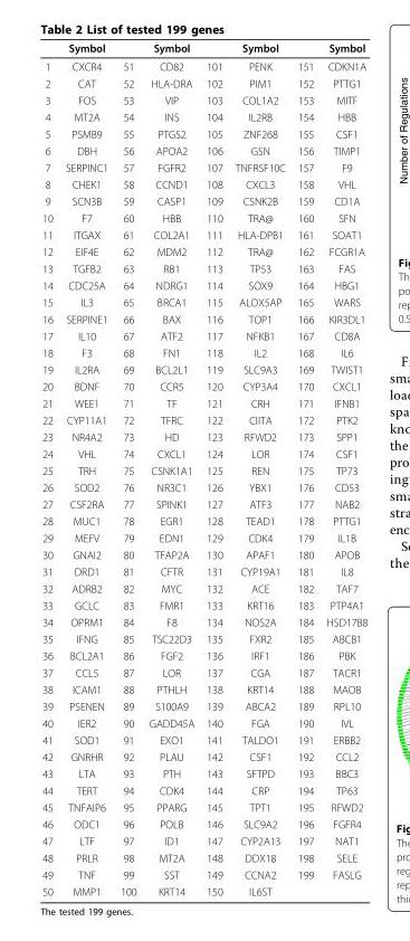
<table><thead><tr><td></td><td>Symbol</td><td></td><td>Symbol</td><td></td><td>Symbol</td><td></td><td>Symbol</td></tr></thead><tbody><tr><td>1</td><td>CXCR4</td><td>51</td><td>CD82</td><td>101</td><td>PENK</td><td>151</td><td>CDKN1A</td></tr><tr><td>2</td><td>CAT</td><td>52</td><td>HLA-DRA</td><td>102</td><td>PIM1</td><td>152</td><td>PTTG1</td></tr><tr><td>3</td><td>FOS</td><td>53</td><td>VIP</td><td>103</td><td>COL1A2</td><td>153</td><td>MITF</td></tr><tr><td>4</td><td>MT2A</td><td>54</td><td>INS</td><td>104</td><td>IL2RB</td><td>154</td><td>HBB</td></tr><tr><td>5</td><td>PSMB9</td><td>55</td><td>PTGS2</td><td>105</td><td>ZNF268</td><td>155</td><td>CSF1</td></tr><tr><td>6</td><td>DBH</td><td>56</td><td>APOA2</td><td>106</td><td>GSN</td><td>156</td><td>TIMP1</td></tr><tr><td>7</td><td>SERPINC1</td><td>57</td><td>FGFR2</td><td>107</td><td>TNFRSF10C</td><td>157</td><td>F9</td></tr><tr><td>8</td><td>CHEK1</td><td>58</td><td>CCND1</td><td>108</td><td>CXCL3</td><td>158</td><td>VHL</td></tr><tr><td>9</td><td>SCN3B</td><td>59</td><td>CASP1</td><td>109</td><td>CSNK2B</td><td>159</td><td>CD1A</td></tr><tr><td>10</td><td>F7</td><td>60</td><td>HBB</td><td>110</td><td>TRA@</td><td>160</td><td>SFN</td></tr><tr><td>11</td><td>ITGAX</td><td>61</td><td>COL2A1</td><td>111</td><td>HLA-DPB1</td><td>161</td><td>SOAT1</td></tr><tr><td>12</td><td>EIF4E</td><td>62</td><td>MDM2</td><td>112</td><td>TRA@</td><td>162</td><td>FCGR1A</td></tr><tr><td>13</td><td>TGFB2</td><td>63</td><td>RB1</td><td>113</td><td>TP53</td><td>163</td><td>FAS</td></tr><tr><td>14</td><td>CDC25A</td><td>64</td><td>NDRG1</td><td>114</td><td>SOX9</td><td>164</td><td>HBG1</td></tr><tr><td>15</td><td>IL3</td><td>65</td><td>BRCA1</td><td>115</td><td>ALOX5AP</td><td>165</td><td>WARS</td></tr><tr><td>16</td><td>SERPINE1</td><td>66</td><td>BAX</td><td>116</td><td>TOP1</td><td>166</td><td>KIR3DL1</td></tr><tr><td>17</td><td>IL10</td><td>67</td><td>ATF2</td><td>117</td><td>NFKB1</td><td>167</td><td>CD8A</td></tr><tr><td>18</td><td>F3</td><td>68</td><td>FN1</td><td>118</td><td>IL2</td><td>168</td><td>IL6</td></tr><tr><td>19</td><td>IL2RA</td><td>69</td><td>BCL2L1</td><td>119</td><td>SLC9A3</td><td>169</td><td>TWIST1</td></tr><tr><td>20</td><td>BDNF</td><td>70</td><td>CCR5</td><td>120</td><td>CYP3A4</td><td>170</td><td>CXCL1</td></tr><tr><td>21</td><td>WEE1</td><td>71</td><td>TF</td><td>121</td><td>CRH</td><td>171</td><td>IFNB1</td></tr><tr><td>22</td><td>CYP11A1</td><td>72</td><td>TFRC</td><td>122</td><td>CIITA</td><td>172</td><td>PTK2</td></tr><tr><td>23</td><td>NR4A2</td><td>73</td><td>HD</td><td>123</td><td>RFWD2</td><td>173</td><td>SPP1</td></tr><tr><td>24</td><td>VHL</td><td>74</td><td>CXCL1</td><td>124</td><td>LOR</td><td>174</td><td>CSF1</td></tr><tr><td>25</td><td>TRH</td><td>75</td><td>CSNK1A1</td><td>125</td><td>REN</td><td>175</td><td>TP73</td></tr><tr><td>26</td><td>SOD2</td><td>76</td><td>NR3C1</td><td>126</td><td>YBX1</td><td>176</td><td>CD53</td></tr><tr><td>27</td><td>CSF2RA</td><td>77</td><td>SPINK1</td><td>127</td><td>ATF3</td><td>177</td><td>NAB2</td></tr><tr><td>28</td><td>MUC1</td><td>78</td><td>EGR1</td><td>128</td><td>TEAD1</td><td>178</td><td>PTTG1</td></tr><tr><td>29</td><td>MEFV</td><td>79</td><td>EDN1</td><td>129</td><td>CDK4</td><td>179</td><td>IL1B</td></tr><tr><td>30</td><td>GNAI2</td><td>80</td><td>TFAP2A</td><td>130</td><td>APAF1</td><td>180</td><td>APOB</td></tr><tr><td>31</td><td>DRD1</td><td>81</td><td>CFTR</td><td>131</td><td>CYP19A1</td><td>181</td><td>IL8</td></tr><tr><td>32</td><td>ADRB2</td><td>82</td><td>MYC</td><td>132</td><td>ACE</td><td>182</td><td>TAF7</td></tr><tr><td>33</td><td>GCLC</td><td>83</td><td>FMR1</td><td>133</td><td>KRT16</td><td>183</td><td>PTP4A1</td></tr><tr><td>34</td><td>OPRM1</td><td>84</td><td>F8</td><td>134</td><td>NOS2A</td><td>184</td><td>HSD17B8</td></tr><tr><td>35</td><td>IFNG</td><td>85</td><td>TSC22D3</td><td>135</td><td>FXR2</td><td>185</td><td>ABCB1</td></tr><tr><td>36</td><td>BCL2A1</td><td>86</td><td>FGF2</td><td>136</td><td>IRF1</td><td>186</td><td>PBK</td></tr><tr><td>37</td><td>CCL5</td><td>87</td><td>LOR</td><td>137</td><td>CGA</td><td>187</td><td>TACR1</td></tr><tr><td>38</td><td>ICAM1</td><td>88</td><td>PTHLH</td><td>138</td><td>KRT14</td><td>188</td><td>MAOB</td></tr><tr><td>39</td><td>PSENEN</td><td>89</td><td>S100A9</td><td>139</td><td>ABCA2</td><td>189</td><td>RPL10</td></tr><tr><td>40</td><td>IER2</td><td>90</td><td>GADD45A</td><td>140</td><td>FGA</td><td>190</td><td>IVL</td></tr><tr><td>41</td><td>SOD1</td><td>91</td><td>EXO1</td><td>141</td><td>TALDO1</td><td>191</td><td>ERBB2</td></tr><tr><td>42</td><td>GNRHR</td><td>92</td><td>PLAU</td><td>142</td><td>CSF1</td><td>192</td><td>CCL2</td></tr><tr><td>43</td><td>LTA</td><td>93</td><td>PTH</td><td>143</td><td>SFTPD</td><td>193</td><td>BBC3</td></tr><tr><td>44</td><td>TERT</td><td>94</td><td>CDK4</td><td>144</td><td>CRP</td><td>194</td><td>TP63</td></tr><tr><td>45</td><td>TNFAIP6</td><td>95</td><td>PPARG</td><td>145</td><td>TPT1</td><td>195</td><td>RFWD2</td></tr><tr><td>46</td><td>ODC1</td><td>96</td><td>POLB</td><td>146</td><td>SLC9A2</td><td>196</td><td>FGFR4</td></tr><tr><td>47</td><td>LTF</td><td>97</td><td>ID1</td><td>147</td><td>CYP2A13</td><td>197</td><td>NAT1</td></tr><tr><td>48</td><td>PRLR</td><td>98</td><td>MT2A</td><td>148</td><td>DDX18</td><td>198</td><td>SELE</td></tr><tr><td>49</td><td>TNF</td><td>99</td><td>SST</td><td>149</td><td>CCNA2</td><td>199</td><td>FASLG</td></tr><tr><td>50</td><td>MMP1</td><td>100</td><td>KRT14</td><td>150</td><td>IL6ST</td><td></td><td></td></tr></tbody></table>